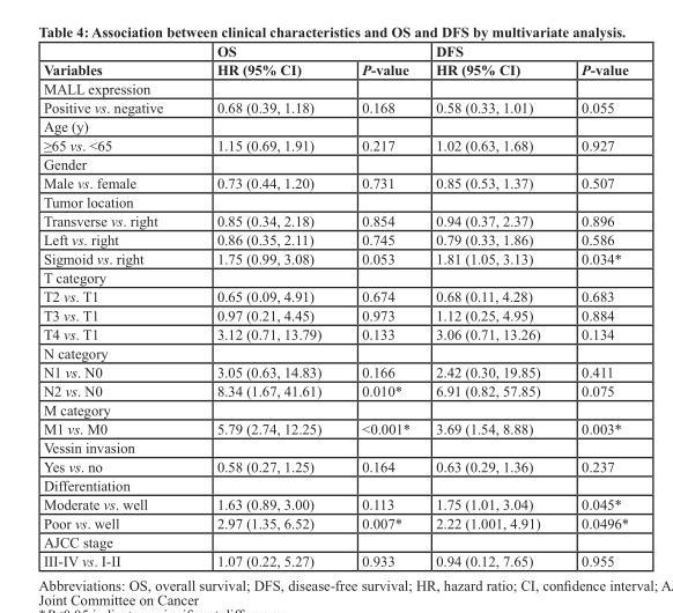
<table><thead><tr><td rowspan="2">Variables</td><td colspan="2">OS</td><td colspan="2">DFS</td></tr><tr><td>HR (95% CI)</td><td>P-value</td><td>HR (95% CI)</td><td>P-value</td></tr></thead><tbody><tr><td colspan="5">MALL expression</td></tr><tr><td>Positive vs. negative</td><td>0.68 (0.39, 1.18)</td><td>0.168</td><td>0.58 (0.33, 1.01)</td><td>0.055</td></tr><tr><td colspan="5">Age (y)</td></tr><tr><td>≥65 vs. &lt;65</td><td>1.15 (0.69, 1.91)</td><td>0.217</td><td>1.02 (0.63, 1.68)</td><td>0.927</td></tr><tr><td colspan="5">Gender</td></tr><tr><td>Male vs. female</td><td>0.73 (0.44, 1.20)</td><td>0.731</td><td>0.85 (0.53, 1.37)</td><td>0.507</td></tr><tr><td colspan="5">Tumor location</td></tr><tr><td>Transverse vs. right</td><td>0.85 (0.34, 2.18)</td><td>0.854</td><td>0.94 (0.37, 2.37)</td><td>0.896</td></tr><tr><td>Left vs. right</td><td>0.86 (0.35, 2.11)</td><td>0.745</td><td>0.79 (0.33, 1.86)</td><td>0.586</td></tr><tr><td>Sigmoid vs. right</td><td>1.75 (0.99, 3.08)</td><td>0.053</td><td>1.81 (1.05, 3.13)</td><td>0.034*</td></tr><tr><td colspan="5">T category</td></tr><tr><td>T2 vs. T1</td><td>0.65 (0.09, 4.91)</td><td>0.674</td><td>0.68 (0.11, 4.28)</td><td>0.683</td></tr><tr><td>T3 vs. T1</td><td>0.97 (0.21, 4.45)</td><td>0.973</td><td>1.12 (0.25, 4.95)</td><td>0.884</td></tr><tr><td>T4 vs. T1</td><td>3.12 (0.71, 13.79)</td><td>0.133</td><td>3.06 (0.71, 13.26)</td><td>0.134</td></tr><tr><td colspan="5">N category</td></tr><tr><td>N1 vs. N0</td><td>3.05 (0.63, 14.83)</td><td>0.166</td><td>2.42 (0.30, 19.85)</td><td>0.411</td></tr><tr><td>N2 vs. N0</td><td>8.34 (1.67, 41.61)</td><td>0.010*</td><td>6.91 (0.82, 57.85)</td><td>0.075</td></tr><tr><td colspan="5">M category</td></tr><tr><td>M1 vs. M0</td><td>5.79 (2.74, 12.25)</td><td>&lt;0.001*</td><td>3.69 (1.54, 8.88)</td><td>0.003*</td></tr><tr><td colspan="5">Vessin invasion</td></tr><tr><td>Yes vs. no</td><td>0.58 (0.27, 1.25)</td><td>0.164</td><td>0.63 (0.29, 1.36)</td><td>0.237</td></tr><tr><td colspan="5">Differentiation</td></tr><tr><td>Moderate vs. well</td><td>1.63 (0.89, 3.00)</td><td>0.113</td><td>1.75 (1.01, 3.04)</td><td>0.045*</td></tr><tr><td>Poor vs. well</td><td>2.97 (1.35, 6.52)</td><td>0.007*</td><td>2.22 (1.001, 4.91)</td><td>0.0496*</td></tr><tr><td colspan="5">AJCC stage</td></tr><tr><td>III-IV vs. I-II</td><td>1.07 (0.22, 5.27)</td><td>0.933</td><td>0.94 (0.12, 7.65)</td><td>0.955</td></tr></tbody></table>